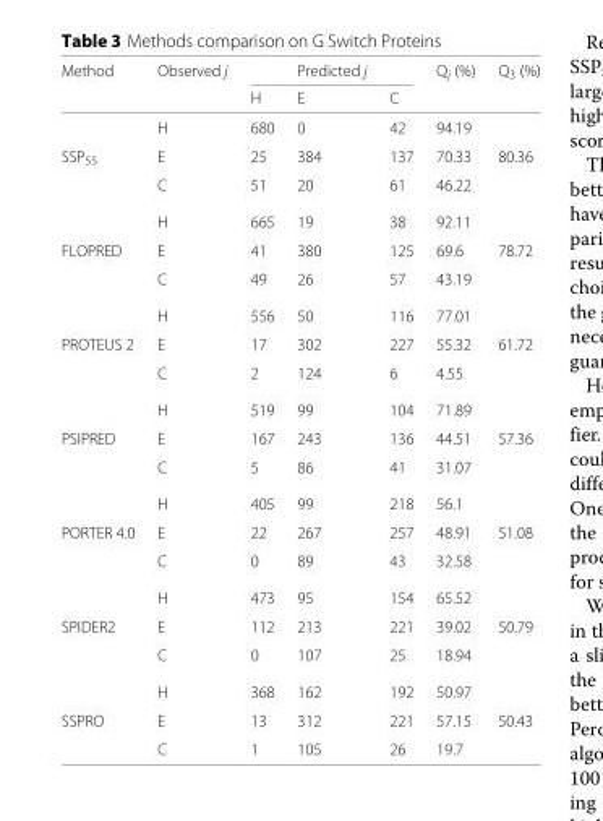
<table><thead><tr><td rowspan="2">Method</td><td rowspan="2">Observed j</td><td rowspan="2">H</td><td rowspan="2">Predicted j E</td><td rowspan="2">C</td><td rowspan="2">Q<sub>j</sub> (%)</td><td rowspan="2">Q<sub>3</sub> (%)</td></tr><tr></tr></thead><tbody><tr><td></td><td>H</td><td>680</td><td>0</td><td>42</td><td>94.19</td><td></td></tr><tr><td rowspan="3">SSP<sub>55</sub></td><td>E</td><td>25</td><td>384</td><td>137</td><td>70.33</td><td>80.36</td></tr><tr><td>C</td><td>51</td><td>20</td><td>61</td><td>46.22</td><td></td></tr><tr><td>H</td><td>665</td><td>19</td><td>38</td><td>92.11</td><td></td></tr><tr><td rowspan="3">FLOPRED</td><td>E</td><td>41</td><td>380</td><td>125</td><td>69.6</td><td>78.72</td></tr><tr><td>C</td><td>49</td><td>26</td><td>57</td><td>43.19</td><td></td></tr><tr><td>H</td><td>556</td><td>50</td><td>116</td><td>77.01</td><td></td></tr><tr><td rowspan="3">PROTEUS 2</td><td>E</td><td>17</td><td>302</td><td>227</td><td>55.32</td><td>61.72</td></tr><tr><td>C</td><td>2</td><td>124</td><td>6</td><td>4.55</td><td></td></tr><tr><td>H</td><td>519</td><td>99</td><td>104</td><td>71.89</td><td></td></tr><tr><td rowspan="3">PSIPRED</td><td>E</td><td>167</td><td>243</td><td>136</td><td>44.51</td><td>57.36</td></tr><tr><td>C</td><td>5</td><td>86</td><td>41</td><td>31.07</td><td></td></tr><tr><td>H</td><td>405</td><td>99</td><td>218</td><td>56.1</td><td></td></tr><tr><td rowspan="3">PORTER 4.0</td><td>E</td><td>22</td><td>267</td><td>257</td><td>48.91</td><td>51.08</td></tr><tr><td>C</td><td>0</td><td>89</td><td>43</td><td>32.58</td><td></td></tr><tr><td>H</td><td>473</td><td>95</td><td>154</td><td>65.52</td><td></td></tr><tr><td rowspan="3">SPIDER2</td><td>E</td><td>112</td><td>213</td><td>221</td><td>39.02</td><td>50.79</td></tr><tr><td>C</td><td>0</td><td>107</td><td>25</td><td>18.94</td><td></td></tr><tr><td>H</td><td>368</td><td>162</td><td>192</td><td>50.97</td><td></td></tr><tr><td rowspan="2">SSPRO</td><td>E</td><td>13</td><td>312</td><td>221</td><td>57.15</td><td>50.43</td></tr><tr><td>C</td><td>1</td><td>105</td><td>26</td><td>19.7</td><td></td></tr></tbody></table>